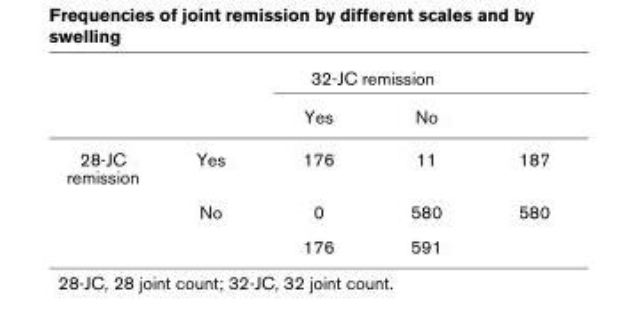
<table><thead><tr><td rowspan="2"></td><td rowspan="2"></td><td colspan="2">32-JC remission</td><td rowspan="2"></td></tr><tr><td>Yes</td><td>No</td></tr></thead><tbody><tr><td rowspan="3">28-JC remission</td><td>Yes</td><td>176</td><td>11</td><td>187</td></tr><tr><td>No</td><td>0</td><td>580</td><td>580</td></tr><tr><td></td><td>176</td><td>591</td><td></td></tr></tbody></table>